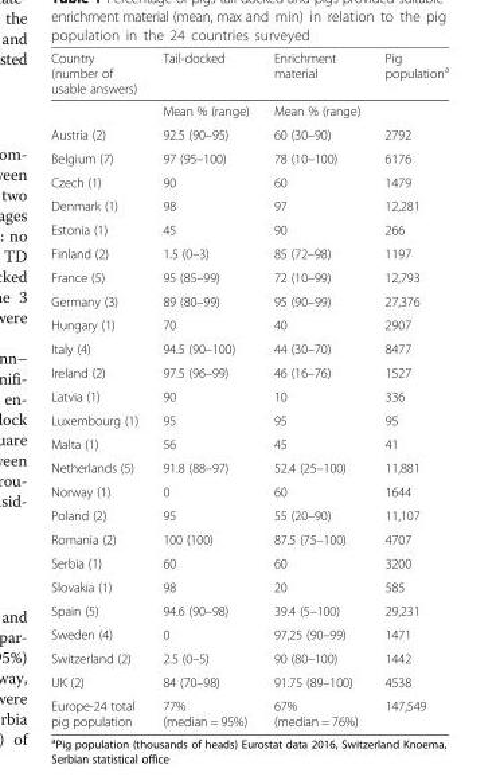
<table><thead><tr><td>Country (number of usable answers)</td><td>Tail-docked</td><td>Enrichment material</td><td>Pig population<sup>a</sup></td></tr></thead><tbody><tr><td></td><td>Mean % (range)</td><td>Mean % (range)</td><td></td></tr><tr><td>Austria (2)</td><td>92.5 (90–95)</td><td>60 (30–90)</td><td>2792</td></tr><tr><td>Belgium (7)</td><td>97 (95–100)</td><td>78 (10–100)</td><td>6176</td></tr><tr><td>Czech (1)</td><td>90</td><td>60</td><td>1479</td></tr><tr><td>Denmark (1)</td><td>98</td><td>97</td><td>12,281</td></tr><tr><td>Estonia (1)</td><td>45</td><td>90</td><td>266</td></tr><tr><td>Finland (2)</td><td>1.5 (0–3)</td><td>85 (72–98)</td><td>1197</td></tr><tr><td>France (5)</td><td>95 (85–99)</td><td>72 (10–99)</td><td>12,793</td></tr><tr><td>Germany (3)</td><td>89 (80–99)</td><td>95 (90–99)</td><td>27,376</td></tr><tr><td>Hungary (1)</td><td>70</td><td>40</td><td>2907</td></tr><tr><td>Italy (4)</td><td>94.5 (90–100)</td><td>44 (30–70)</td><td>8477</td></tr><tr><td>Ireland (2)</td><td>97.5 (96–99)</td><td>46 (16–76)</td><td>1527</td></tr><tr><td>Latvia (1)</td><td>90</td><td>10</td><td>336</td></tr><tr><td>Luxembourg (1)</td><td>95</td><td>95</td><td>95</td></tr><tr><td>Malta (1)</td><td>56</td><td>45</td><td>41</td></tr><tr><td>Netherlands (5)</td><td>91.8 (88–97)</td><td>52.4 (25–100)</td><td>11,881</td></tr><tr><td>Norway (1)</td><td>0</td><td>60</td><td>1644</td></tr><tr><td>Poland (2)</td><td>95</td><td>55 (20–90)</td><td>11,107</td></tr><tr><td>Romania (2)</td><td>100 (100)</td><td>87.5 (75–100)</td><td>4707</td></tr><tr><td>Serbia (1)</td><td>60</td><td>60</td><td>3200</td></tr><tr><td>Slovakia (1)</td><td>98</td><td>20</td><td>585</td></tr><tr><td>Spain (5)</td><td>94.6 (90–98)</td><td>39.4 (5–100)</td><td>29,231</td></tr><tr><td>Sweden (4)</td><td>0</td><td>97,25 (90–99)</td><td>1471</td></tr><tr><td>Switzerland (2)</td><td>2.5 (0–5)</td><td>90 (80–100)</td><td>1442</td></tr><tr><td>UK (2)</td><td>84 (70–98)</td><td>91.75 (89–100)</td><td>4538</td></tr><tr><td>Europe-24 total pig population</td><td>77% (median = 95%)</td><td>67% (median = 76%)</td><td>147,549</td></tr></tbody></table>